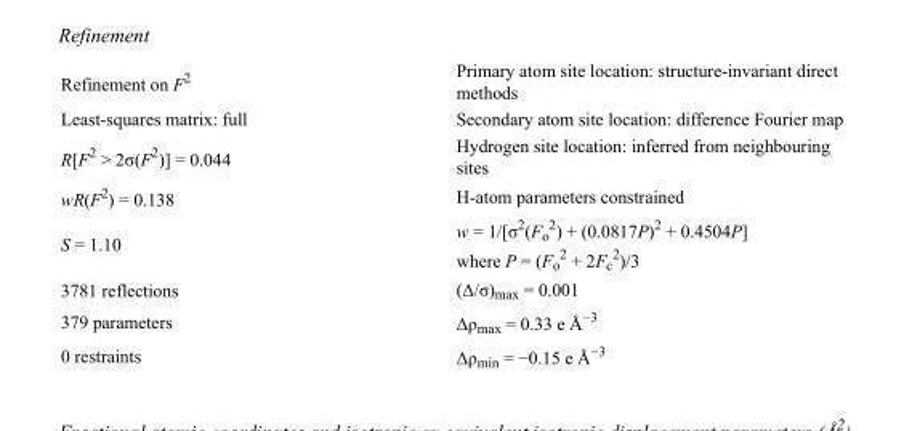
<table><tbody><tr><td>Refinement on F<sup>2</sup></td><td>Primary atom site location: structure-invariant direct methods</td></tr><tr><td>Least-squares matrix: full</td><td>Secondary atom site location: difference Fourier map</td></tr><tr><td>R[F<sup>2</sup> &gt; 2σ(F<sup>2</sup>)] = 0.044</td><td>Hydrogen site location: inferred from neighbouring sites</td></tr><tr><td>wR(F<sup>2</sup>) = 0.138</td><td>H-atom parameters constrained</td></tr><tr><td>S = 1.10</td><td>w = 1/[σ<sup>2</sup>(F<sub>o</sub> <sup>2</sup>) + (0.0817P)<sup>2</sup> + 0.4504P] where P = (F<sub>o</sub> <sup>2</sup> + 2F<sub>c</sub> <sup>2</sup>)/3</td></tr><tr><td>3781 reflections</td><td>(Δ/σ)<sub>max</sub> = 0.001</td></tr><tr><td>379 parameters</td><td>Δρ<sub>max</sub> = 0.33 e Å<sup>−3</sup></td></tr><tr><td>0 restraints</td><td>Δρ<sub>min</sub> = −0.15 e Å<sup>−3</sup></td></tr></tbody></table>